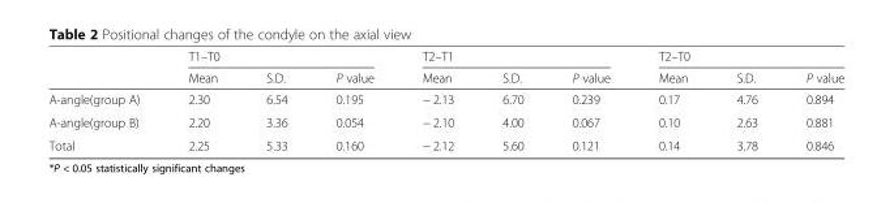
<table><thead><tr><td rowspan="2"></td><td colspan="3">T1–T0</td><td colspan="3">T2–T1</td><td colspan="3">T2–T0</td></tr><tr><td>Mean</td><td>S.D.</td><td>P value</td><td>Mean</td><td>S.D.</td><td>P value</td><td>Mean</td><td>S.D.</td><td>P value</td></tr></thead><tbody><tr><td>A-angle(group A)</td><td>2.30</td><td>6.54</td><td>0.195</td><td>− 2.13</td><td>6.70</td><td>0.239</td><td>0.17</td><td>4.76</td><td>0.894</td></tr><tr><td>A-angle(group B)</td><td>2.20</td><td>3.36</td><td>0.054</td><td>− 2.10</td><td>4.00</td><td>0.067</td><td>0.10</td><td>2.63</td><td>0.881</td></tr><tr><td>Total</td><td>2.25</td><td>5.33</td><td>0.160</td><td>− 2.12</td><td>5.60</td><td>0.121</td><td>0.14</td><td>3.78</td><td>0.846</td></tr></tbody></table>